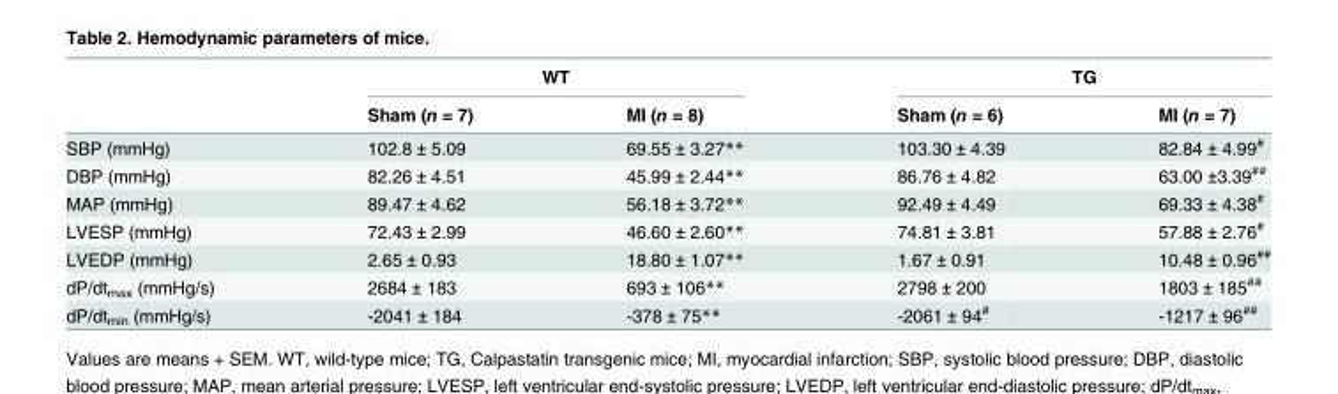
<table><thead><tr><td rowspan="2"></td><td colspan="2">WT</td><td colspan="2">TG</td></tr><tr><td>Sham (n = 7)</td><td>MI (n = 8)</td><td>Sham (n = 6)</td><td>MI (n = 7)</td></tr></thead><tbody><tr><td>SBP (mmHg)</td><td>102.8 ± 5.09</td><td>69.55 ± 3.27**</td><td>103.30 ± 4.39</td><td>82.84 ± 4.99<sup>#</sup></td></tr><tr><td>DBP (mmHg)</td><td>82.26 ± 4.51</td><td>45.99 ± 2.44**</td><td>86.76 ± 4.82</td><td>63.00 ±3.39<sup>##</sup></td></tr><tr><td>MAP (mmHg)</td><td>89.47 ± 4.62</td><td>56.18 ± 3.72**</td><td>92.49 ± 4.49</td><td>69.33 ± 4.38<sup>#</sup></td></tr><tr><td>LVESP (mmHg)</td><td>72.43 ± 2.99</td><td>46.60 ± 2.60**</td><td>74.81 ± 3.81</td><td>57.88 ± 2.76<sup>#</sup></td></tr><tr><td>LVEDP (mmHg)</td><td>2.65 ± 0.93</td><td>18.80 ± 1.07**</td><td>1.67 ± 0.91</td><td>10.48 ± 0.96<sup>##</sup></td></tr><tr><td>dP/dt<sub>max</sub> (mmHg/s)</td><td>2684 ± 183</td><td>693 ± 106**</td><td>2798 ± 200</td><td>1803 ± 185<sup>##</sup></td></tr><tr><td>dP/dt<sub>min</sub> (mmHg/s)</td><td>-2041 ± 184</td><td>-378 ± 75**</td><td>-2061 ± 94<sup>#</sup></td><td>-1217 ± 96<sup>##</sup></td></tr></tbody></table>